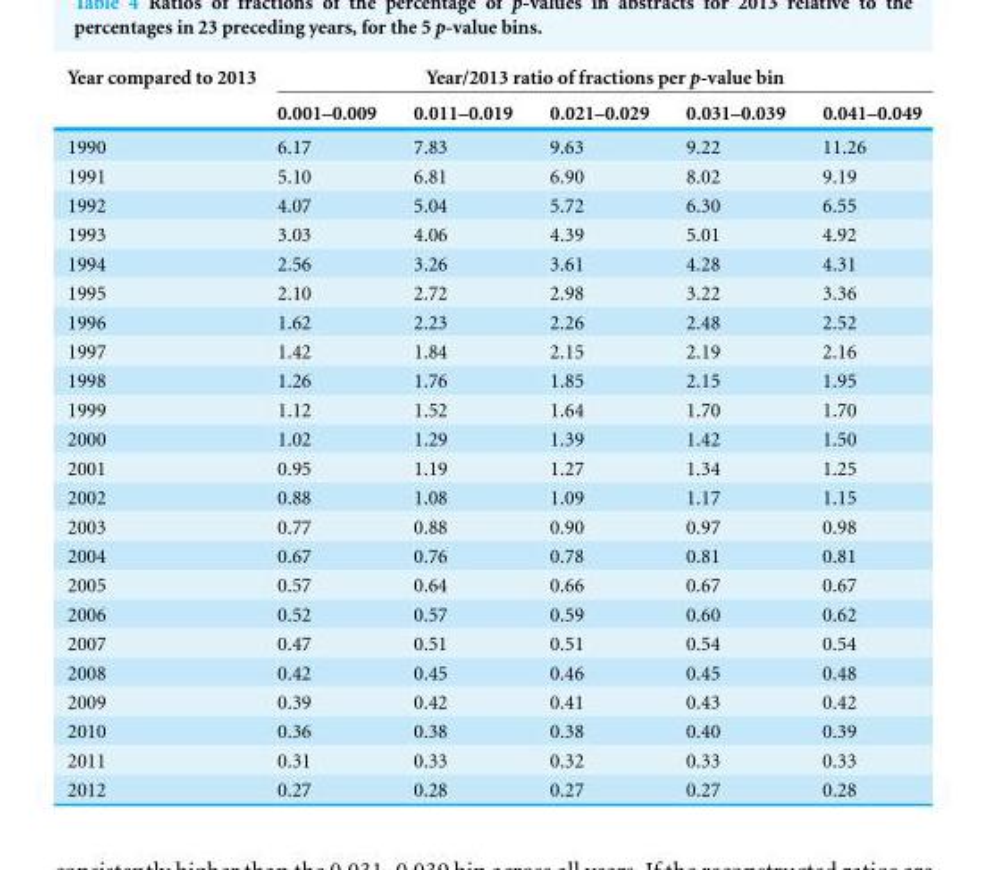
<table><thead><tr><td rowspan="2">Year compared to 2013</td><td colspan="5">Year/2013 ratio of fractions per p-value bin</td></tr><tr><td>0.001–0.009</td><td>0.011–0.019</td><td>0.021–0.029</td><td>0.031–0.039</td><td>0.041–0.049</td></tr></thead><tbody><tr><td>1990</td><td>6.17</td><td>7.83</td><td>9.63</td><td>9.22</td><td>11.26</td></tr><tr><td>1991</td><td>5.10</td><td>6.81</td><td>6.90</td><td>8.02</td><td>9.19</td></tr><tr><td>1992</td><td>4.07</td><td>5.04</td><td>5.72</td><td>6.30</td><td>6.55</td></tr><tr><td>1993</td><td>3.03</td><td>4.06</td><td>4.39</td><td>5.01</td><td>4.92</td></tr><tr><td>1994</td><td>2.56</td><td>3.26</td><td>3.61</td><td>4.28</td><td>4.31</td></tr><tr><td>1995</td><td>2.10</td><td>2.72</td><td>2.98</td><td>3.22</td><td>3.36</td></tr><tr><td>1996</td><td>1.62</td><td>2.23</td><td>2.26</td><td>2.48</td><td>2.52</td></tr><tr><td>1997</td><td>1.42</td><td>1.84</td><td>2.15</td><td>2.19</td><td>2.16</td></tr><tr><td>1998</td><td>1.26</td><td>1.76</td><td>1.85</td><td>2.15</td><td>1.95</td></tr><tr><td>1999</td><td>1.12</td><td>1.52</td><td>1.64</td><td>1.70</td><td>1.70</td></tr><tr><td>2000</td><td>1.02</td><td>1.29</td><td>1.39</td><td>1.42</td><td>1.50</td></tr><tr><td>2001</td><td>0.95</td><td>1.19</td><td>1.27</td><td>1.34</td><td>1.25</td></tr><tr><td>2002</td><td>0.88</td><td>1.08</td><td>1.09</td><td>1.17</td><td>1.15</td></tr><tr><td>2003</td><td>0.77</td><td>0.88</td><td>0.90</td><td>0.97</td><td>0.98</td></tr><tr><td>2004</td><td>0.67</td><td>0.76</td><td>0.78</td><td>0.81</td><td>0.81</td></tr><tr><td>2005</td><td>0.57</td><td>0.64</td><td>0.66</td><td>0.67</td><td>0.67</td></tr><tr><td>2006</td><td>0.52</td><td>0.57</td><td>0.59</td><td>0.60</td><td>0.62</td></tr><tr><td>2007</td><td>0.47</td><td>0.51</td><td>0.51</td><td>0.54</td><td>0.54</td></tr><tr><td>2008</td><td>0.42</td><td>0.45</td><td>0.46</td><td>0.45</td><td>0.48</td></tr><tr><td>2009</td><td>0.39</td><td>0.42</td><td>0.41</td><td>0.43</td><td>0.42</td></tr><tr><td>2010</td><td>0.36</td><td>0.38</td><td>0.38</td><td>0.40</td><td>0.39</td></tr><tr><td>2011</td><td>0.31</td><td>0.33</td><td>0.32</td><td>0.33</td><td>0.33</td></tr><tr><td>2012</td><td>0.27</td><td>0.28</td><td>0.27</td><td>0.27</td><td>0.28</td></tr></tbody></table>